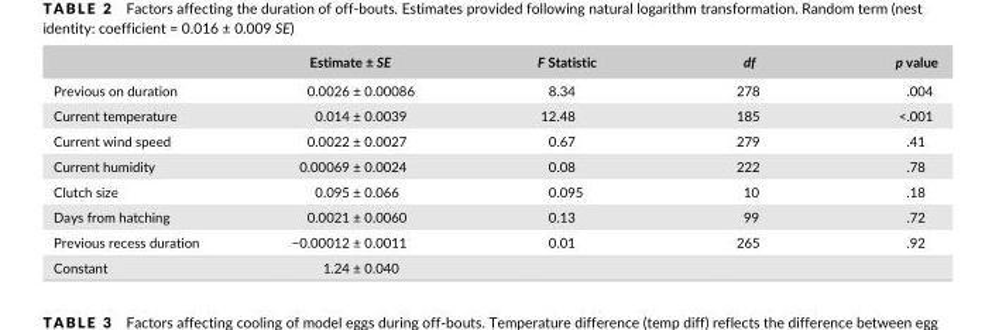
<table><thead><tr><td></td><td>Estimate ± SE</td><td>F Statistic</td><td>df</td><td>p value</td></tr></thead><tbody><tr><td>Previous on duration</td><td>0.0026 ± 0.00086</td><td>8.34</td><td>278</td><td>.004</td></tr><tr><td>Current temperature</td><td>0.014 ± 0.0039</td><td>12.48</td><td>185</td><td>&lt;.001</td></tr><tr><td>Current wind speed</td><td>0.0022 ± 0.0027</td><td>0.67</td><td>279</td><td>.41</td></tr><tr><td>Current humidity</td><td>0.00069 ± 0.0024</td><td>0.08</td><td>222</td><td>.78</td></tr><tr><td>Clutch size</td><td>0.095 ± 0.066</td><td>0.095</td><td>10</td><td>.18</td></tr><tr><td>Days from hatching</td><td>0.0021 ± 0.0060</td><td>0.13</td><td>99</td><td>.72</td></tr><tr><td>Previous recess duration</td><td>−0.00012 ± 0.0011</td><td>0.01</td><td>265</td><td>.92</td></tr><tr><td>Constant</td><td>1.24 ± 0.040</td><td></td><td></td><td></td></tr></tbody></table>